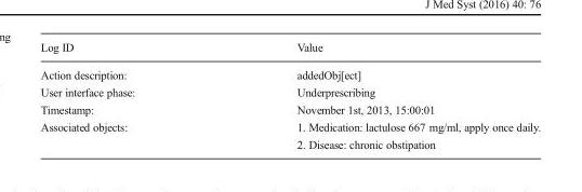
<table><thead><tr><td>Log ID</td><td>Value</td></tr></thead><tbody><tr><td>Action description:</td><td>addedObj[ect]</td></tr><tr><td>User interface phase:</td><td>Underprescribing</td></tr><tr><td>Timestamp:</td><td>November 1st, 2013, 15:00:01</td></tr><tr><td>Associated objects:</td><td>1. Medication: lactulose 667 mg/ml, apply once daily. 2. Disease: chronic obstipation</td></tr></tbody></table>